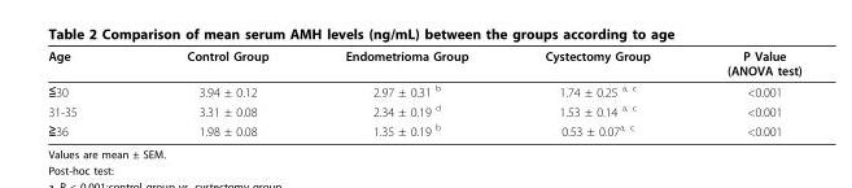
<table><thead><tr><td>Age</td><td>Control Group</td><td>Endometrioma Group</td><td>Cystectomy Group</td><td>P Value (ANOVA test)</td></tr></thead><tbody><tr><td>≦30</td><td>3.94 ± 0.12</td><td>2.97 ± 0.31 <sup>b</sup></td><td>1.74 ± 0.25 <sup>a, c</sup></td><td>&lt;0.001</td></tr><tr><td>31-35</td><td>3.31 ± 0.08</td><td>2.34 ± 0.19 <sup>d</sup></td><td>1.53 ± 0.14 <sup>a, c</sup></td><td>&lt;0.001</td></tr><tr><td>≧36</td><td>1.98 ± 0.08</td><td>1.35 ± 0.19 <sup>b</sup></td><td>0.53 ± 0.07<sup>a, c</sup></td><td>&lt;0.001</td></tr></tbody></table>